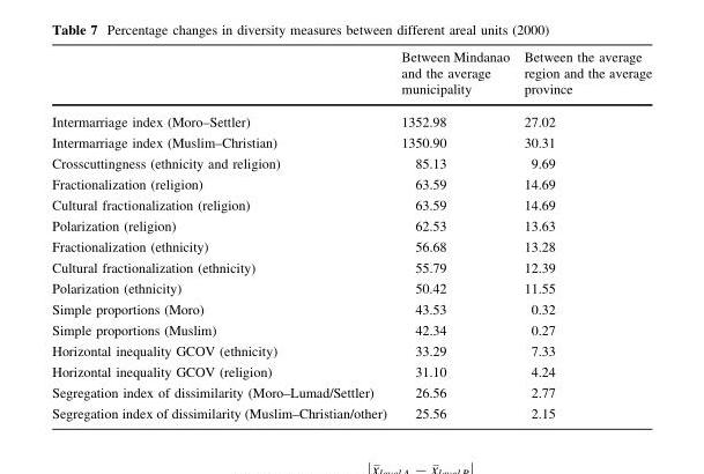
<table><thead><tr><td></td><td>Between Mindanao and the average municipality</td><td>Between the average region and the average province</td></tr></thead><tbody><tr><td>Intermarriage index (Moro–Settler)</td><td>1352.98</td><td>27.02</td></tr><tr><td>Intermarriage index (Muslim–Christian)</td><td>1350.90</td><td>30.31</td></tr><tr><td>Crosscuttingness (ethnicity and religion)</td><td>85.13</td><td>9.69</td></tr><tr><td>Fractionalization (religion)</td><td>63.59</td><td>14.69</td></tr><tr><td>Cultural fractionalization (religion)</td><td>63.59</td><td>14.69</td></tr><tr><td>Polarization (religion)</td><td>62.53</td><td>13.63</td></tr><tr><td>Fractionalization (ethnicity)</td><td>56.68</td><td>13.28</td></tr><tr><td>Cultural fractionalization (ethnicity)</td><td>55.79</td><td>12.39</td></tr><tr><td>Polarization (ethnicity)</td><td>50.42</td><td>11.55</td></tr><tr><td>Simple proportions (Moro)</td><td>43.53</td><td>0.32</td></tr><tr><td>Simple proportions (Muslim)</td><td>42.34</td><td>0.27</td></tr><tr><td>Horizontal inequality GCOV (ethnicity)</td><td>33.29</td><td>7.33</td></tr><tr><td>Horizontal inequality GCOV (religion)</td><td>31.10</td><td>4.24</td></tr><tr><td>Segregation index of dissimilarity (Moro–Lumad/Settler)</td><td>26.56</td><td>2.77</td></tr><tr><td>Segregation index of dissimilarity (Muslim–Christian/other)</td><td>25.56</td><td>2.15</td></tr></tbody></table>